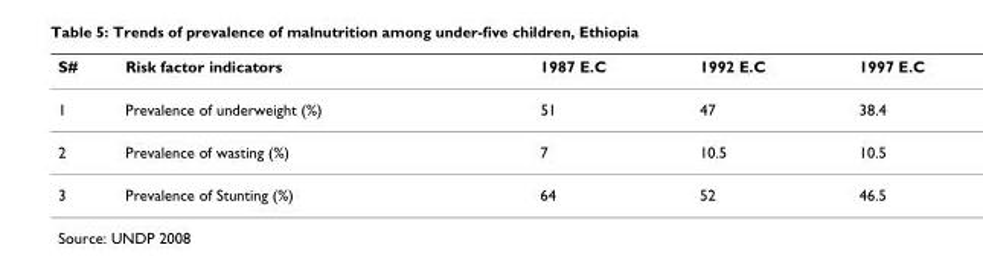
<table><thead><tr><td>S#</td><td>Risk factor indicators</td><td>1987 E.C</td><td>1992 E.C</td><td>1997 E.C</td></tr></thead><tbody><tr><td>1</td><td>Prevalence of underweight (%)</td><td>51</td><td>47</td><td>38.4</td></tr><tr><td>2</td><td>Prevalence of wasting (%)</td><td>7</td><td>10.5</td><td>10.5</td></tr><tr><td>3</td><td>Prevalence of Stunting (%)</td><td>64</td><td>52</td><td>46.5</td></tr></tbody></table>